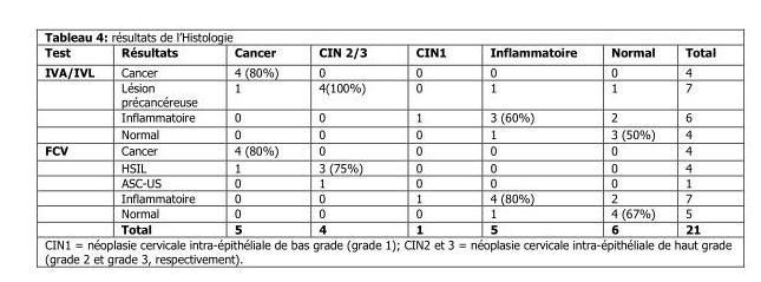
<table><thead><tr><td>Test</td><td>Résultats</td><td>Cancer</td><td>CIN 2/3</td><td>CIN1</td><td>Inflammatoire</td><td>Normal</td><td>Total</td></tr></thead><tbody><tr><td rowspan="4">IVA/IVL</td><td>Cancer</td><td>4 (80%)</td><td>0</td><td>0</td><td>0</td><td>0</td><td>4</td></tr><tr><td>Lésion précancéreuse</td><td>1</td><td>4(100%)</td><td>0</td><td>1</td><td>1</td><td>7</td></tr><tr><td>Inflammatoire</td><td>0</td><td>0</td><td>1</td><td>3 (60%)</td><td>2</td><td>6</td></tr><tr><td>Normal</td><td>0</td><td>0</td><td>0</td><td>1</td><td>3 (50%)</td><td>4</td></tr><tr><td rowspan="6">FCV</td><td>Cancer</td><td>4 (80%)</td><td>0</td><td>0</td><td>0</td><td>0</td><td>4</td></tr><tr><td>HSIL</td><td>1</td><td>3 (75%)</td><td>0</td><td>0</td><td>0</td><td>4</td></tr><tr><td>ASC-US</td><td>0</td><td>1</td><td>0</td><td>0</td><td>0</td><td>1</td></tr><tr><td>Inflammatoire</td><td>0</td><td>0</td><td>1</td><td>4 (80%)</td><td>2</td><td>7</td></tr><tr><td>Normal</td><td>0</td><td>0</td><td>0</td><td>1</td><td>4 (67%)</td><td>5</td></tr><tr><td>Total</td><td>5</td><td>4</td><td>1</td><td>5</td><td>6</td><td>21</td></tr></tbody></table>